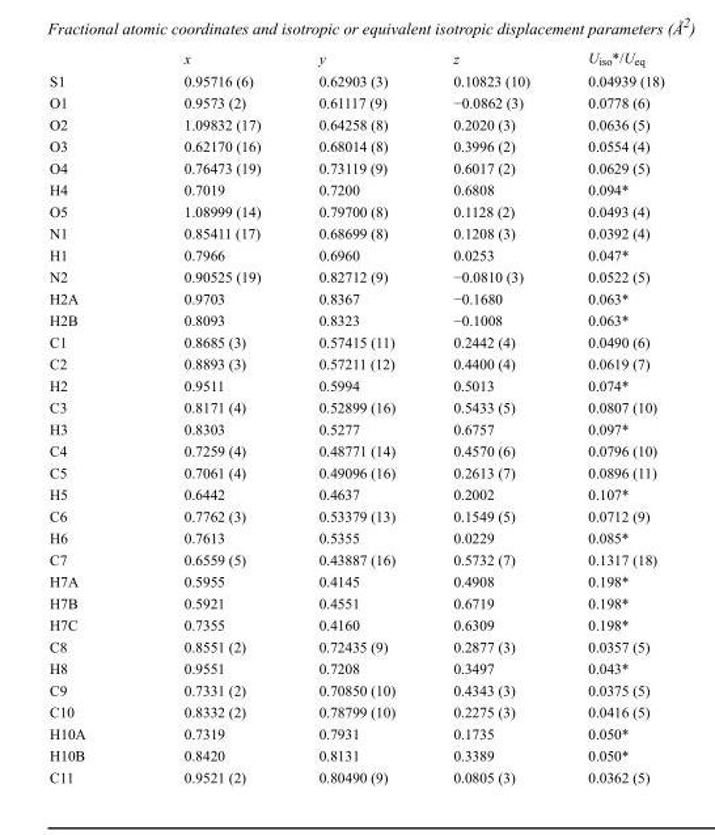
<table><thead><tr><td></td><td>x</td><td>y</td><td>z</td><td>U<sub>iso</sub>*/U<sub>eq</sub></td></tr></thead><tbody><tr><td>S1</td><td>0.95716 (6)</td><td>0.62903 (3)</td><td>0.10823 (10)</td><td>0.04939 (18)</td></tr><tr><td>O1</td><td>0.9573 (2)</td><td>0.61117 (9)</td><td>−0.0862 (3)</td><td>0.0778 (6)</td></tr><tr><td>O2</td><td>1.09832 (17)</td><td>0.64258 (8)</td><td>0.2020 (3)</td><td>0.0636 (5)</td></tr><tr><td>O3</td><td>0.62170 (16)</td><td>0.68014 (8)</td><td>0.3996 (2)</td><td>0.0554 (4)</td></tr><tr><td>O4</td><td>0.76473 (19)</td><td>0.73119 (9)</td><td>0.6017 (2)</td><td>0.0629 (5)</td></tr><tr><td>H4</td><td>0.7019</td><td>0.7200</td><td>0.6808</td><td>0.094*</td></tr><tr><td>O5</td><td>1.08999 (14)</td><td>0.79700 (8)</td><td>0.1128 (2)</td><td>0.0493 (4)</td></tr><tr><td>N1</td><td>0.85411 (17)</td><td>0.68699 (8)</td><td>0.1208 (3)</td><td>0.0392 (4)</td></tr><tr><td>H1</td><td>0.7966</td><td>0.6960</td><td>0.0253</td><td>0.047*</td></tr><tr><td>N2</td><td>0.90525 (19)</td><td>0.82712 (9)</td><td>−0.0810 (3)</td><td>0.0522 (5)</td></tr><tr><td>H2A</td><td>0.9703</td><td>0.8367</td><td>−0.1680</td><td>0.063*</td></tr><tr><td>H2B</td><td>0.8093</td><td>0.8323</td><td>−0.1008</td><td>0.063*</td></tr><tr><td>C1</td><td>0.8685 (3)</td><td>0.57415 (11)</td><td>0.2442 (4)</td><td>0.0490 (6)</td></tr><tr><td>C2</td><td>0.8893 (3)</td><td>0.57211 (12)</td><td>0.4400 (4)</td><td>0.0619 (7)</td></tr><tr><td>H2</td><td>0.9511</td><td>0.5994</td><td>0.5013</td><td>0.074*</td></tr><tr><td>C3</td><td>0.8171 (4)</td><td>0.52899 (16)</td><td>0.5433 (5)</td><td>0.0807 (10)</td></tr><tr><td>H3</td><td>0.8303</td><td>0.5277</td><td>0.6757</td><td>0.097*</td></tr><tr><td>C4</td><td>0.7259 (4)</td><td>0.48771 (14)</td><td>0.4570 (6)</td><td>0.0796 (10)</td></tr><tr><td>C5</td><td>0.7061 (4)</td><td>0.49096 (16)</td><td>0.2613 (7)</td><td>0.0896 (11)</td></tr><tr><td>H5</td><td>0.6442</td><td>0.4637</td><td>0.2002</td><td>0.107*</td></tr><tr><td>C6</td><td>0.7762 (3)</td><td>0.53379 (13)</td><td>0.1549 (5)</td><td>0.0712 (9)</td></tr><tr><td>H6</td><td>0.7613</td><td>0.5355</td><td>0.0229</td><td>0.085*</td></tr><tr><td>C7</td><td>0.6559 (5)</td><td>0.43887 (16)</td><td>0.5732 (7)</td><td>0.1317 (18)</td></tr><tr><td>H7A</td><td>0.5955</td><td>0.4145</td><td>0.4908</td><td>0.198*</td></tr><tr><td>H7B</td><td>0.5921</td><td>0.4551</td><td>0.6719</td><td>0.198*</td></tr><tr><td>H7C</td><td>0.7355</td><td>0.4160</td><td>0.6309</td><td>0.198*</td></tr><tr><td>C8</td><td>0.8551 (2)</td><td>0.72435 (9)</td><td>0.2877 (3)</td><td>0.0357 (5)</td></tr><tr><td>H8</td><td>0.9551</td><td>0.7208</td><td>0.3497</td><td>0.043*</td></tr><tr><td>C9</td><td>0.7331 (2)</td><td>0.70850 (10)</td><td>0.4343 (3)</td><td>0.0375 (5)</td></tr><tr><td>C10</td><td>0.8332 (2)</td><td>0.78799 (10)</td><td>0.2275 (3)</td><td>0.0416 (5)</td></tr><tr><td>H10A</td><td>0.7319</td><td>0.7931</td><td>0.1735</td><td>0.050*</td></tr><tr><td>H10B</td><td>0.8420</td><td>0.8131</td><td>0.3389</td><td>0.050*</td></tr><tr><td>C11</td><td>0.9521 (2)</td><td>0.80490 (9)</td><td>0.0805 (3)</td><td>0.0362 (5)</td></tr></tbody></table>